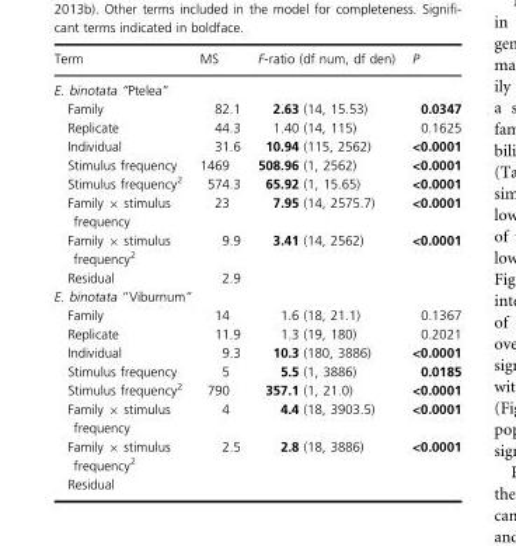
<table><thead><tr><td>Term</td><td>MS</td><td>F-ratio (df num, df den)</td><td>P</td></tr></thead><tbody><tr><td colspan="4">E. binotata “Ptelea”</td></tr><tr><td>Family</td><td>82.1</td><td>2.63 (14, 15.53)</td><td>0.0347</td></tr><tr><td>Replicate</td><td>44.3</td><td>1.40 (14, 115)</td><td>0.1625</td></tr><tr><td>Individual</td><td>31.6</td><td>10.94 (115, 2562)</td><td>&lt;0.0001</td></tr><tr><td>Stimulus frequency</td><td>1469</td><td>508.96 (1, 2562)</td><td>&lt;0.0001</td></tr><tr><td>Stimulus frequency<sup>2</sup></td><td>574.3</td><td>65.92 (1, 15.65)</td><td>&lt;0.0001</td></tr><tr><td>Family × stimulus frequency</td><td>23</td><td>7.95 (14, 2575.7)</td><td>&lt;0.0001</td></tr><tr><td>Family × stimulus frequency<sup>2</sup></td><td>9.9</td><td>3.41 (14, 2562)</td><td>&lt;0.0001</td></tr><tr><td>Residual</td><td>2.9</td><td></td><td></td></tr><tr><td colspan="4">E. binotata “Viburnum”</td></tr><tr><td>Family</td><td>14</td><td>1.6 (18, 21.1)</td><td>0.1367</td></tr><tr><td>Replicate</td><td>11.9</td><td>1.3 (19, 180)</td><td>0.2021</td></tr><tr><td>Individual</td><td>9.3</td><td>10.3 (180, 3886)</td><td>&lt;0.0001</td></tr><tr><td>Stimulus frequency</td><td>5</td><td>5.5 (1, 3886)</td><td>0.0185</td></tr><tr><td>Stimulus frequency<sup>2</sup></td><td>790</td><td>357.1 (1, 21.0)</td><td>&lt;0.0001</td></tr><tr><td>Family × stimulus frequency</td><td>4</td><td>4.4 (18, 3903.5)</td><td>&lt;0.0001</td></tr><tr><td>Family × stimulus frequency<sup>2</sup></td><td>2.5</td><td>2.8 (18, 3886)</td><td>&lt;0.0001</td></tr><tr><td>Residual</td><td></td><td></td><td></td></tr></tbody></table>